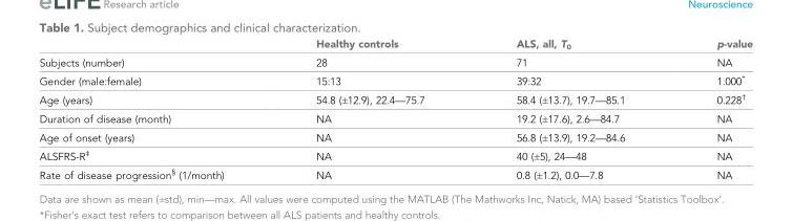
<table><thead><tr><td></td><td>Healthy controls</td><td>ALS, all, T<sub>0</sub></td><td>p-value</td></tr></thead><tbody><tr><td>Subjects (number)</td><td>28</td><td>71</td><td>NA</td></tr><tr><td>Gender (male:female)</td><td>15:13</td><td>39:32</td><td>1.000*</td></tr><tr><td>Age (years)</td><td>54.8 (±12.9), 22.4—75.7</td><td>58.4 (±13.7), 19.7—85.1</td><td>0.228<sup>†</sup></td></tr><tr><td>Duration of disease (month)</td><td>NA</td><td>19.2 (±17.6), 2.6—84.7</td><td>NA</td></tr><tr><td>Age of onset (years)</td><td>NA</td><td>56.8 (±13.9), 19.2—84.6</td><td>NA</td></tr><tr><td>ALSFRS-R<sup>‡</sup></td><td>NA</td><td>40 (±5), 24—48</td><td>NA</td></tr><tr><td>Rate of disease progression<sup>§</sup> (1/month)</td><td>NA</td><td>0.8 (±1.2), 0.0—7.8</td><td>NA</td></tr></tbody></table>